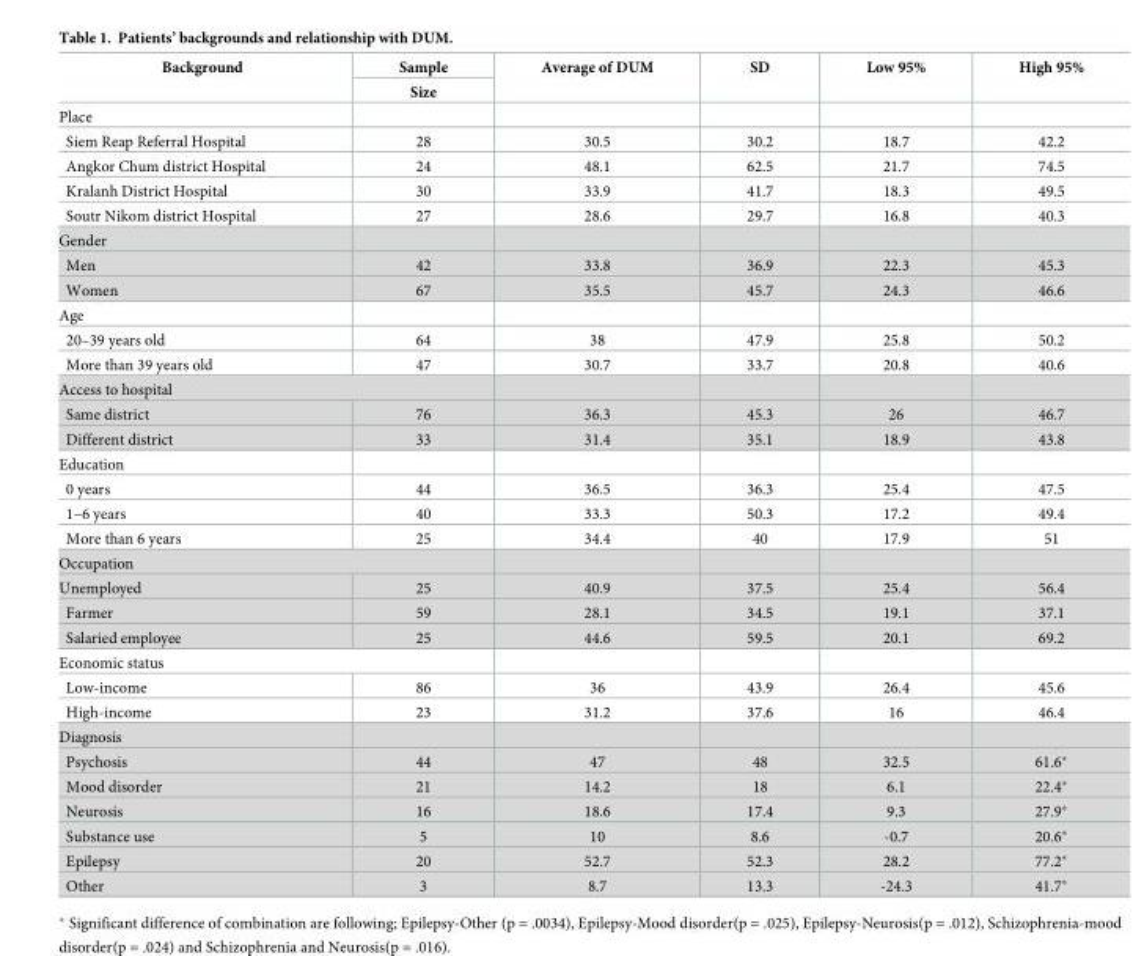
<table><thead><tr><td rowspan="2">Background</td><td rowspan="2">Sample Size</td><td rowspan="2">Average of DUM</td><td rowspan="2">SD</td><td rowspan="2">Low 95%</td><td rowspan="2">High 95%</td></tr><tr></tr></thead><tbody><tr><td colspan="6">Place</td></tr><tr><td>Siem Reap Referral Hospital</td><td>28</td><td>30.5</td><td>30.2</td><td>18.7</td><td>42.2</td></tr><tr><td>Angkor Chum district Hospital</td><td>24</td><td>48.1</td><td>62.5</td><td>21.7</td><td>74.5</td></tr><tr><td>Kralanh District Hospital</td><td>30</td><td>33.9</td><td>41.7</td><td>18.3</td><td>49.5</td></tr><tr><td>Soutr Nikom district Hospital</td><td>27</td><td>28.6</td><td>29.7</td><td>16.8</td><td>40.3</td></tr><tr><td colspan="6">Gender</td></tr><tr><td>Men</td><td>42</td><td>33.8</td><td>36.9</td><td>22.3</td><td>45.3</td></tr><tr><td>Women</td><td>67</td><td>35.5</td><td>45.7</td><td>24.3</td><td>46.6</td></tr><tr><td colspan="6">Age</td></tr><tr><td>20–39 years old</td><td>64</td><td>38</td><td>47.9</td><td>25.8</td><td>50.2</td></tr><tr><td>More than 39 years old</td><td>47</td><td>30.7</td><td>33.7</td><td>20.8</td><td>40.6</td></tr><tr><td colspan="6">Access to hospital</td></tr><tr><td>Same district</td><td>76</td><td>36.3</td><td>45.3</td><td>26</td><td>46.7</td></tr><tr><td>Different district</td><td>33</td><td>31.4</td><td>35.1</td><td>18.9</td><td>43.8</td></tr><tr><td colspan="6">Education</td></tr><tr><td>0 years</td><td>44</td><td>36.5</td><td>36.3</td><td>25.4</td><td>47.5</td></tr><tr><td>1–6 years</td><td>40</td><td>33.3</td><td>50.3</td><td>17.2</td><td>49.4</td></tr><tr><td>More than 6 years</td><td>25</td><td>34.4</td><td>40</td><td>17.9</td><td>51</td></tr><tr><td colspan="6">Occupation</td></tr><tr><td>Unemployed</td><td>25</td><td>40.9</td><td>37.5</td><td>25.4</td><td>56.4</td></tr><tr><td>Farmer</td><td>59</td><td>28.1</td><td>34.5</td><td>19.1</td><td>37.1</td></tr><tr><td>Salaried employee</td><td>25</td><td>44.6</td><td>59.5</td><td>20.1</td><td>69.2</td></tr><tr><td colspan="6">Economic status</td></tr><tr><td>Low-income</td><td>86</td><td>36</td><td>43.9</td><td>26.4</td><td>45.6</td></tr><tr><td>High-income</td><td>23</td><td>31.2</td><td>37.6</td><td>16</td><td>46.4</td></tr><tr><td colspan="6">Diagnosis</td></tr><tr><td>Psychosis</td><td>44</td><td>47</td><td>48</td><td>32.5</td><td>61.6*</td></tr><tr><td>Mood disorder</td><td>21</td><td>14.2</td><td>18</td><td>6.1</td><td>22.4*</td></tr><tr><td>Neurosis</td><td>16</td><td>18.6</td><td>17.4</td><td>9.3</td><td>27.9*</td></tr><tr><td>Substance use</td><td>5</td><td>10</td><td>8.6</td><td>-0.7</td><td>20.6*</td></tr><tr><td>Epilepsy</td><td>20</td><td>52.7</td><td>52.3</td><td>28.2</td><td>77.2*</td></tr><tr><td>Other</td><td>3</td><td>8.7</td><td>13.3</td><td>-24.3</td><td>41.7*</td></tr></tbody></table>